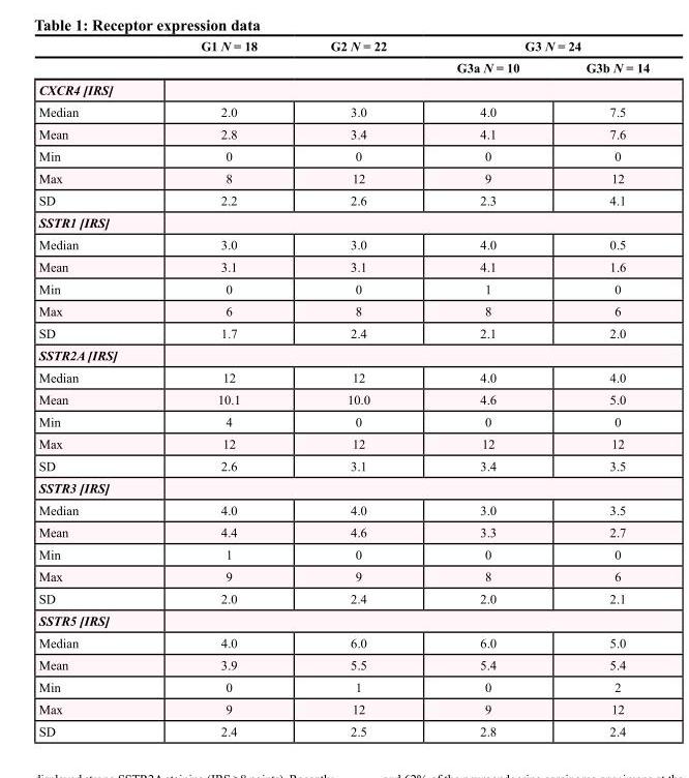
<table><thead><tr><td rowspan="2"></td><td rowspan="2">G1 N = 18</td><td rowspan="2">G2 N = 22</td><td colspan="2">G3 N = 24</td></tr><tr><td>G3a N = 10</td><td>G3b N = 14</td></tr></thead><tbody><tr><td colspan="5">CXCR4 [IRS]</td></tr><tr><td>Median</td><td>2.0</td><td>3.0</td><td>4.0</td><td>7.5</td></tr><tr><td>Mean</td><td>2.8</td><td>3.4</td><td>4.1</td><td>7.6</td></tr><tr><td>Min</td><td>0</td><td>0</td><td>0</td><td>0</td></tr><tr><td>Max</td><td>8</td><td>12</td><td>9</td><td>12</td></tr><tr><td>SD</td><td>2.2</td><td>2.6</td><td>2.3</td><td>4.1</td></tr><tr><td colspan="5">SSTR1 [IRS]</td></tr><tr><td>Median</td><td>3.0</td><td>3.0</td><td>4.0</td><td>0.5</td></tr><tr><td>Mean</td><td>3.1</td><td>3.1</td><td>4.1</td><td>1.6</td></tr><tr><td>Min</td><td>0</td><td>0</td><td>1</td><td>0</td></tr><tr><td>Max</td><td>6</td><td>8</td><td>8</td><td>6</td></tr><tr><td>SD</td><td>1.7</td><td>2.4</td><td>2.1</td><td>2.0</td></tr><tr><td colspan="5">SSTR2A [IRS]</td></tr><tr><td>Median</td><td>12</td><td>12</td><td>4.0</td><td>4.0</td></tr><tr><td>Mean</td><td>10.1</td><td>10.0</td><td>4.6</td><td>5.0</td></tr><tr><td>Min</td><td>4</td><td>0</td><td>0</td><td>0</td></tr><tr><td>Max</td><td>12</td><td>12</td><td>12</td><td>12</td></tr><tr><td>SD</td><td>2.6</td><td>3.1</td><td>3.4</td><td>3.5</td></tr><tr><td colspan="5">SSTR3 [IRS]</td></tr><tr><td>Median</td><td>4.0</td><td>4.0</td><td>3.0</td><td>3.5</td></tr><tr><td>Mean</td><td>4.4</td><td>4.6</td><td>3.3</td><td>2.7</td></tr><tr><td>Min</td><td>1</td><td>0</td><td>0</td><td>0</td></tr><tr><td>Max</td><td>9</td><td>9</td><td>8</td><td>6</td></tr><tr><td>SD</td><td>2.0</td><td>2.4</td><td>2.0</td><td>2.1</td></tr><tr><td colspan="5">SSTR5 [IRS]</td></tr><tr><td>Median</td><td>4.0</td><td>6.0</td><td>6.0</td><td>5.0</td></tr><tr><td>Mean</td><td>3.9</td><td>5.5</td><td>5.4</td><td>5.4</td></tr><tr><td>Min</td><td>0</td><td>1</td><td>0</td><td>2</td></tr><tr><td>Max</td><td>9</td><td>12</td><td>9</td><td>12</td></tr><tr><td>SD</td><td>2.4</td><td>2.5</td><td>2.8</td><td>2.4</td></tr></tbody></table>